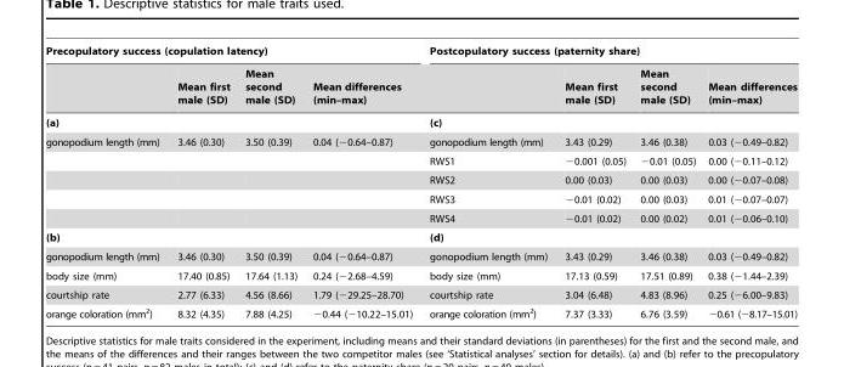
<table><thead><tr><td colspan="4">Precopulatory success (copulation latency)</td><td colspan="4">Postcopulatory success (paternity share)</td></tr><tr><td></td><td>Mean first male (SD)</td><td>Mean second male (SD)</td><td>Mean differences (min–max)</td><td></td><td>Mean first male (SD)</td><td>Mean second male (SD)</td><td>Mean differences (min–max)</td></tr></thead><tbody><tr><td>(a)</td><td></td><td></td><td></td><td>(c)</td><td></td><td></td><td></td></tr><tr><td rowspan="5">gonopodium length (mm)</td><td>3.46 (0.30)</td><td>3.50 (0.39)</td><td>0.04 (−0.64–0.87)</td><td>gonopodium length (mm)</td><td>3.43 (0.29)</td><td>3.46 (0.38)</td><td>0.03 (−0.49–0.82)</td></tr><tr><td></td><td></td><td></td><td>RWS1</td><td>−0.001 (0.05)</td><td>−0.01 (0.05)</td><td>0.00 (−0.11–0.12)</td></tr><tr><td></td><td></td><td></td><td>RWS2</td><td>0.00 (0.03)</td><td>0.00 (0.03)</td><td>0.00 (−0.07–0.08)</td></tr><tr><td></td><td></td><td></td><td>RWS3</td><td>−0.01 (0.02)</td><td>0.00 (0.03)</td><td>0.01 (−0.07–0.07)</td></tr><tr><td></td><td></td><td></td><td>RWS4</td><td>−0.01 (0.02)</td><td>0.00 (0.02)</td><td>0.01 (−0.06–0.10)</td></tr><tr><td>(b)</td><td></td><td></td><td></td><td>(d)</td><td></td><td></td><td></td></tr><tr><td>gonopodium length (mm)</td><td>3.46 (0.30)</td><td>3.50 (0.39)</td><td>0.04 (−0.64–0.87)</td><td>gonopodium length (mm)</td><td>3.43 (0.29)</td><td>3.46 (0.38)</td><td>0.03 (−0.49–0.82)</td></tr><tr><td>body size (mm)</td><td>17.40 (0.85)</td><td>17.64 (1.13)</td><td>0.24 (−2.68–4.59)</td><td>body size (mm)</td><td>17.13 (0.59)</td><td>17.51 (0.89)</td><td>0.38 (−1.44–2.39)</td></tr><tr><td>courtship rate</td><td>2.77 (6.33)</td><td>4.56 (8.66)</td><td>1.79 (−29.25–28.70)</td><td>courtship rate</td><td>3.04 (6.48)</td><td>4.83 (8.96)</td><td>0.25 (−6.00–9.83)</td></tr><tr><td>orange coloration (mm<sup>2</sup>)</td><td>8.32 (4.35)</td><td>7.88 (4.25)</td><td>−0.44 (−10.22–15.01)</td><td>orange coloration (mm<sup>2</sup>)</td><td>7.37 (3.33)</td><td>6.76 (3.59)</td><td>−0.61 (−8.17–15.01)</td></tr></tbody></table>